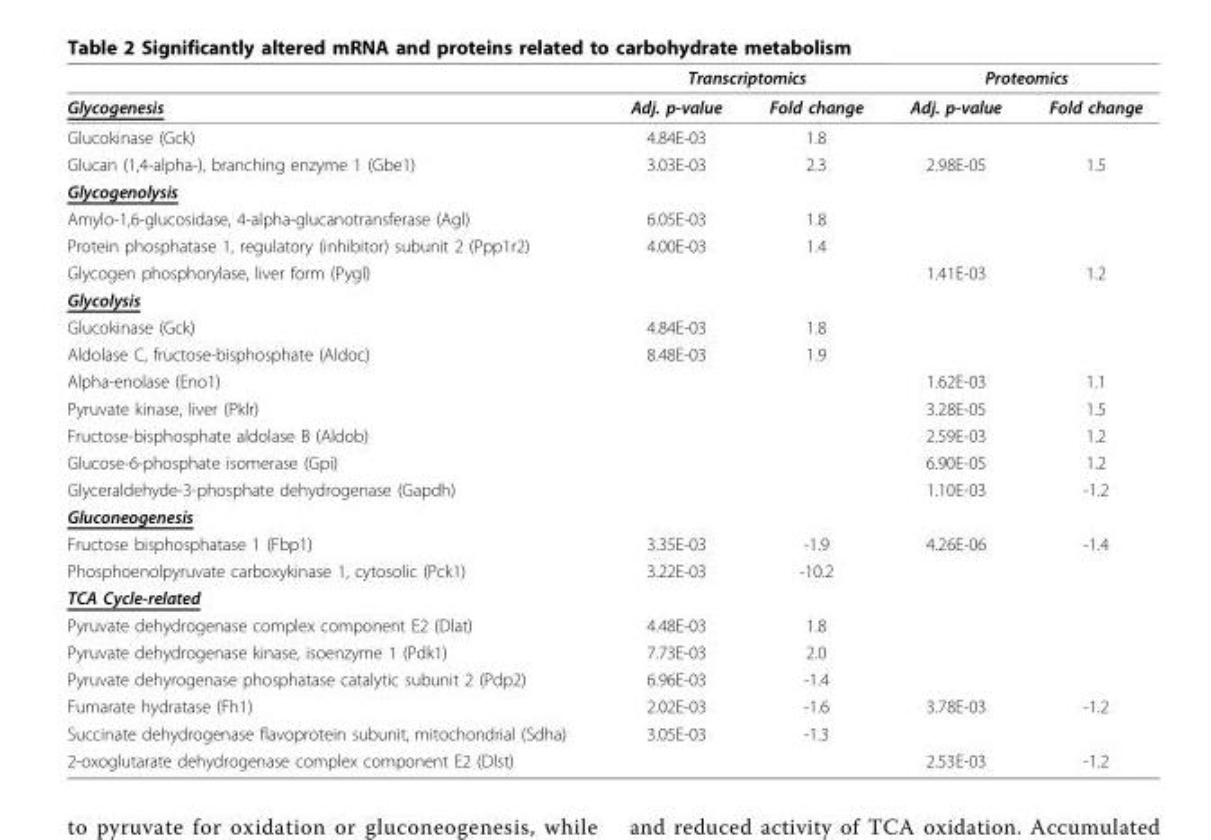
<table><thead><tr><td rowspan="2">Glycogenesis</td><td colspan="2">Transcriptomics</td><td colspan="2">Proteomics</td></tr><tr><td>Adj. p-value</td><td>Fold change</td><td>Adj. p-value</td><td>Fold change</td></tr></thead><tbody><tr><td>Glucokinase (Gck)</td><td>4.84E-03</td><td>1.8</td><td></td><td></td></tr><tr><td>Glucan (1,4-alpha-), branching enzyme 1 (Gbe1)</td><td>3.03E-03</td><td>2.3</td><td>2.98E-05</td><td>1.5</td></tr><tr><td colspan="5">Glycogenolysis</td></tr><tr><td>Amylo-1,6-glucosidase, 4-alpha-glucanotransferase (Agl)</td><td>6.05E-03</td><td>1.8</td><td></td><td></td></tr><tr><td>Protein phosphatase 1, regulatory (inhibitor) subunit 2 (Ppp1r2)</td><td>4.00E-03</td><td>1.4</td><td></td><td></td></tr><tr><td>Glycogen phosphorylase, liver form (Pygl)</td><td></td><td></td><td>1.41E-03</td><td>1.2</td></tr><tr><td colspan="5">Glycolysis</td></tr><tr><td>Glucokinase (Gck)</td><td>4.84E-03</td><td>1.8</td><td></td><td></td></tr><tr><td>Aldolase C, fructose-bisphosphate (Aldoc)</td><td>8.48E-03</td><td>1.9</td><td></td><td></td></tr><tr><td>Alpha-enolase (Eno1)</td><td></td><td></td><td>1.62E-03</td><td>1.1</td></tr><tr><td>Pyruvate kinase, liver (Pklr)</td><td></td><td></td><td>3.28E-05</td><td>1.5</td></tr><tr><td>Fructose-bisphosphate aldolase B (Aldob)</td><td></td><td></td><td>2.59E-03</td><td>1.2</td></tr><tr><td>Glucose-6-phosphate isomerase (Gpi)</td><td></td><td></td><td>6.90E-05</td><td>1.2</td></tr><tr><td>Glyceraldehyde-3-phosphate dehydrogenase (Gapdh)</td><td></td><td></td><td>1.10E-03</td><td>-1.2</td></tr><tr><td colspan="5">Gluconeogenesis</td></tr><tr><td>Fructose bisphosphatase 1 (Fbp1)</td><td>3.35E-03</td><td>-1.9</td><td>4.26E-06</td><td>-1.4</td></tr><tr><td>Phosphoenolpyruvate carboxykinase 1, cytosolic (Pck1)</td><td>3.22E-03</td><td>-10.2</td><td></td><td></td></tr><tr><td colspan="5">TCA Cycle-related</td></tr><tr><td>Pyruvate dehydrogenase complex component E2 (Dlat)</td><td>4.48E-03</td><td>1.8</td><td></td><td></td></tr><tr><td>Pyruvate dehydrogenase kinase, isoenzyme 1 (Pdk1)</td><td>7.73E-03</td><td>2.0</td><td></td><td></td></tr><tr><td>Pyruvate dehyrogenase phosphatase catalytic subunit 2 (Pdp2)</td><td>6.96E-03</td><td>-1.4</td><td></td><td></td></tr><tr><td>Fumarate hydratase (Fh1)</td><td>2.02E-03</td><td>-1.6</td><td>3.78E-03</td><td>-1.2</td></tr><tr><td>Succinate dehydrogenase flavoprotein subunit, mitochondrial (Sdha)</td><td>3.05E-03</td><td>-1.3</td><td></td><td></td></tr><tr><td>2-oxoglutarate dehydrogenase complex component E2 (Dlst)</td><td></td><td></td><td>2.53E-03</td><td>-1.2</td></tr></tbody></table>